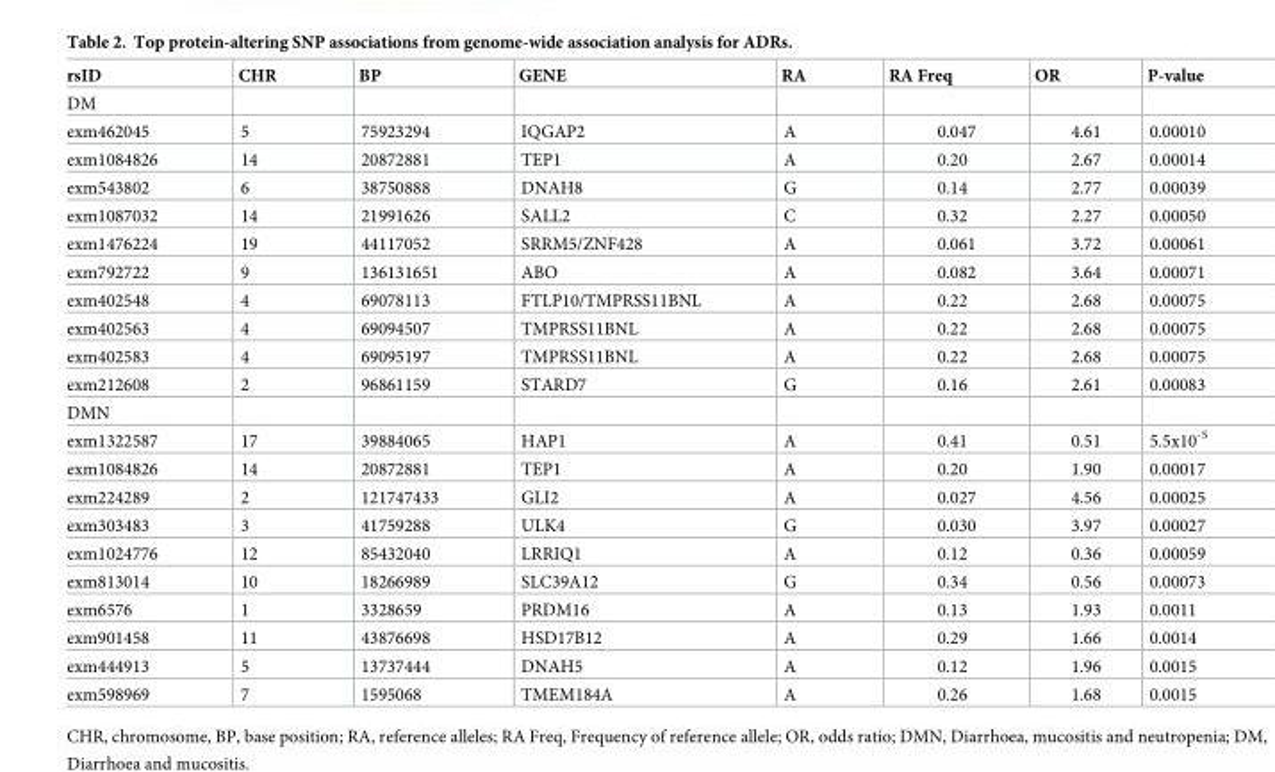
<table><thead><tr><td>rsID</td><td>CHR</td><td>BP</td><td>GENE</td><td>RA</td><td>RA Freq</td><td>OR</td><td>P-value</td></tr></thead><tbody><tr><td colspan="8">DM</td></tr><tr><td>exm462045</td><td>5</td><td>75923294</td><td>IQGAP2</td><td>A</td><td>0.047</td><td>4.61</td><td>0.00010</td></tr><tr><td>exm1084826</td><td>14</td><td>20872881</td><td>TEP1</td><td>A</td><td>0.20</td><td>2.67</td><td>0.00014</td></tr><tr><td>exm543802</td><td>6</td><td>38750888</td><td>DNAH8</td><td>G</td><td>0.14</td><td>2.77</td><td>0.00039</td></tr><tr><td>exm1087032</td><td>14</td><td>21991626</td><td>SALL2</td><td>C</td><td>0.32</td><td>2.27</td><td>0.00050</td></tr><tr><td>exm1476224</td><td>19</td><td>44117052</td><td>SRRM5/ZNF428</td><td>A</td><td>0.061</td><td>3.72</td><td>0.00061</td></tr><tr><td>exm792722</td><td>9</td><td>136131651</td><td>ABO</td><td>A</td><td>0.082</td><td>3.64</td><td>0.00071</td></tr><tr><td>exm402548</td><td>4</td><td>69078113</td><td>FTLP10/TMPRSS11BNL</td><td>A</td><td>0.22</td><td>2.68</td><td>0.00075</td></tr><tr><td>exm402563</td><td>4</td><td>69094507</td><td>TMPRSS11BNL</td><td>A</td><td>0.22</td><td>2.68</td><td>0.00075</td></tr><tr><td>exm402583</td><td>4</td><td>69095197</td><td>TMPRSS11BNL</td><td>A</td><td>0.22</td><td>2.68</td><td>0.00075</td></tr><tr><td>exm212608</td><td>2</td><td>96861159</td><td>STARD7</td><td>G</td><td>0.16</td><td>2.61</td><td>0.00083</td></tr><tr><td colspan="8">DMN</td></tr><tr><td>exm1322587</td><td>17</td><td>39884065</td><td>HAP1</td><td>A</td><td>0.41</td><td>0.51</td><td>5.5x10<sup>-5</sup></td></tr><tr><td>exm1084826</td><td>14</td><td>20872881</td><td>TEP1</td><td>A</td><td>0.20</td><td>1.90</td><td>0.00017</td></tr><tr><td>exm224289</td><td>2</td><td>121747433</td><td>GLI2</td><td>A</td><td>0.027</td><td>4.56</td><td>0.00025</td></tr><tr><td>exm303483</td><td>3</td><td>41759288</td><td>ULK4</td><td>G</td><td>0.030</td><td>3.97</td><td>0.00027</td></tr><tr><td>exm1024776</td><td>12</td><td>85432040</td><td>LRRIQ1</td><td>A</td><td>0.12</td><td>0.36</td><td>0.00059</td></tr><tr><td>exm813014</td><td>10</td><td>18266989</td><td>SLC39A12</td><td>G</td><td>0.34</td><td>0.56</td><td>0.00073</td></tr><tr><td>exm6576</td><td>1</td><td>3328659</td><td>PRDM16</td><td>A</td><td>0.13</td><td>1.93</td><td>0.0011</td></tr><tr><td>exm901458</td><td>11</td><td>43876698</td><td>HSD17B12</td><td>A</td><td>0.29</td><td>1.66</td><td>0.0014</td></tr><tr><td>exm444913</td><td>5</td><td>13737444</td><td>DNAH5</td><td>A</td><td>0.12</td><td>1.96</td><td>0.0015</td></tr><tr><td>exm598969</td><td>7</td><td>1595068</td><td>TMEM184A</td><td>A</td><td>0.26</td><td>1.68</td><td>0.0015</td></tr></tbody></table>